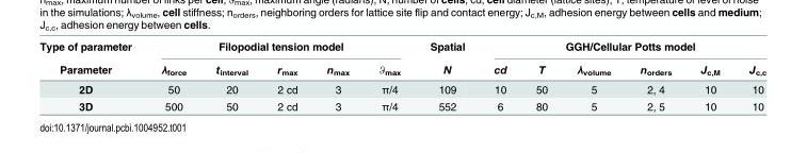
<table><thead><tr><td rowspan="2">Type of parameter Parameter</td><td colspan="5">Filopodial tension model</td><td rowspan="2">Spatial N</td><td colspan="6">GGH/Cellular Potts model</td></tr><tr><td>λ<sub>force</sub></td><td>t<sub>interval</sub></td><td>r<sub>max</sub></td><td>n<sub>max</sub></td><td>ϑ<sub>max</sub></td><td>cd</td><td>T</td><td>λ<sub>volume</sub></td><td>n<sub>orders</sub></td><td>J<sub>c,M</sub></td><td>J<sub>c,c</sub></td></tr></thead><tbody><tr><td>2D</td><td>50</td><td>20</td><td>2 cd</td><td>3</td><td>π/4</td><td>109</td><td>10</td><td>50</td><td>5</td><td>2, 4</td><td>10</td><td>10</td></tr><tr><td>3D</td><td>500</td><td>50</td><td>2 cd</td><td>3</td><td>π/4</td><td>552</td><td>6</td><td>80</td><td>5</td><td>2, 5</td><td>10</td><td>10</td></tr></tbody></table>